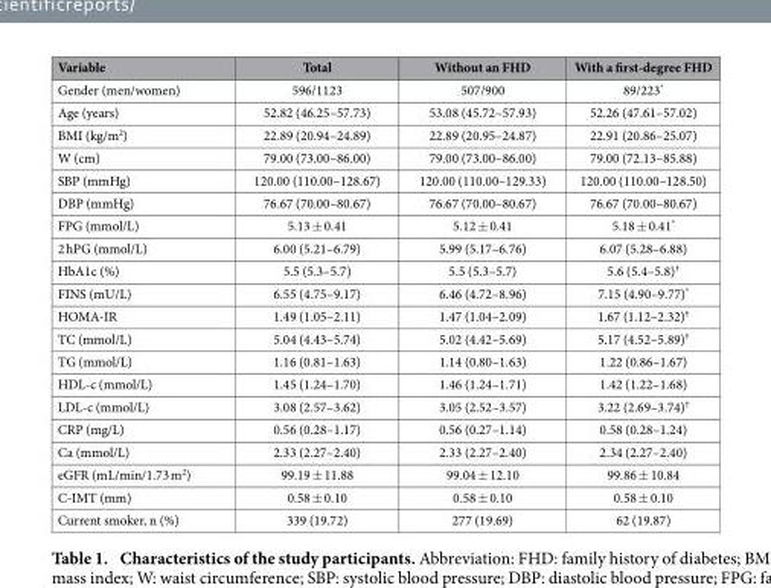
<table><thead><tr><td>Variable</td><td>Total</td><td>Without an FHD</td><td>With a first-degree FHD</td></tr></thead><tbody><tr><td>Gender (men/women)</td><td>596/1123</td><td>507/900</td><td>89/223*</td></tr><tr><td>Age (years)</td><td>52.82 (46.25–57.73)</td><td>53.08 (45.72–57.93)</td><td>52.26 (47.61–57.02)</td></tr><tr><td>BMI (kg/m<sup>2</sup>)</td><td>22.89 (20.94–24.89)</td><td>22.89 (20.95–24.87)</td><td>22.91 (20.86–25.07)</td></tr><tr><td>W (cm)</td><td>79.00 (73.00–86.00)</td><td>79.00 (73.00–86.00)</td><td>79.00 (72.13–85.88)</td></tr><tr><td>SBP (mmHg)</td><td>120.00 (110.00–128.67)</td><td>120.00 (110.00–129.33)</td><td>120.00 (110.00–128.50)</td></tr><tr><td>DBP (mmHg)</td><td>76.67 (70.00–80.67)</td><td>76.67 (70.00–80.67)</td><td>76.67 (70.00–80.67)</td></tr><tr><td>FPG (mmol/L)</td><td>5.13 ± 0.41</td><td>5.12 ± 0.41</td><td>5.18 ± 0.41*</td></tr><tr><td>2 hPG (mmol/L)</td><td>6.00 (5.21–6.79)</td><td>5.99 (5.17–6.76)</td><td>6.07 (5.28–6.88)</td></tr><tr><td>HbA1c (%)</td><td>5.5 (5.3–5.7)</td><td>5.5 (5.3–5.7)</td><td>5.6 (5.4–5.8)<sup>†</sup></td></tr><tr><td>FINS (mU/L)</td><td>6.55 (4.75–9.17)</td><td>6.46 (4.72–8.96)</td><td>7.15 (4.90–9.77)*</td></tr><tr><td>HOMA-IR</td><td>1.49 (1.05–2.11)</td><td>1.47 (1.04–2.09)</td><td>1.67 (1.12–2.32)<sup>†</sup></td></tr><tr><td>TC (mmol/L)</td><td>5.04 (4.43–5.74)</td><td>5.02 (4.42–5.69)</td><td>5.17 (4.52–5.89)<sup>†</sup></td></tr><tr><td>TG (mmol/L)</td><td>1.16 (0.81–1.63)</td><td>1.14 (0.80–1.63)</td><td>1.22 (0.86–1.67)</td></tr><tr><td>HDL-c (mmol/L)</td><td>1.45 (1.24–1.70)</td><td>1.46 (1.24–1.71)</td><td>1.42 (1.22–1.68)</td></tr><tr><td>LDL-c (mmol/L)</td><td>3.08 (2.57–3.62)</td><td>3.05 (2.52–3.57)</td><td>3.22 (2.69–3.74)<sup>†</sup></td></tr><tr><td>CRP (mg/L)</td><td>0.56 (0.28–1.17)</td><td>0.56 (0.27–1.14)</td><td>0.58 (0.28–1.24)</td></tr><tr><td>Ca (mmol/L)</td><td>2.33 (2.27–2.40)</td><td>2.33 (2.27–2.40)</td><td>2.34 (2.27–2.40)</td></tr><tr><td>eGFR (mL/min/1.73 m<sup>2</sup>)</td><td>99.19 ± 11.88</td><td>99.04 ± 12.10</td><td>99.86 ± 10.84</td></tr><tr><td>C-IMT (mm)</td><td>0.58 ± 0.10</td><td>0.58 ± 0.10</td><td>0.58 ± 0.10</td></tr><tr><td>Current smoker, n (%)</td><td>339 (19.72)</td><td>277 (19.69)</td><td>62 (19.87)</td></tr></tbody></table>